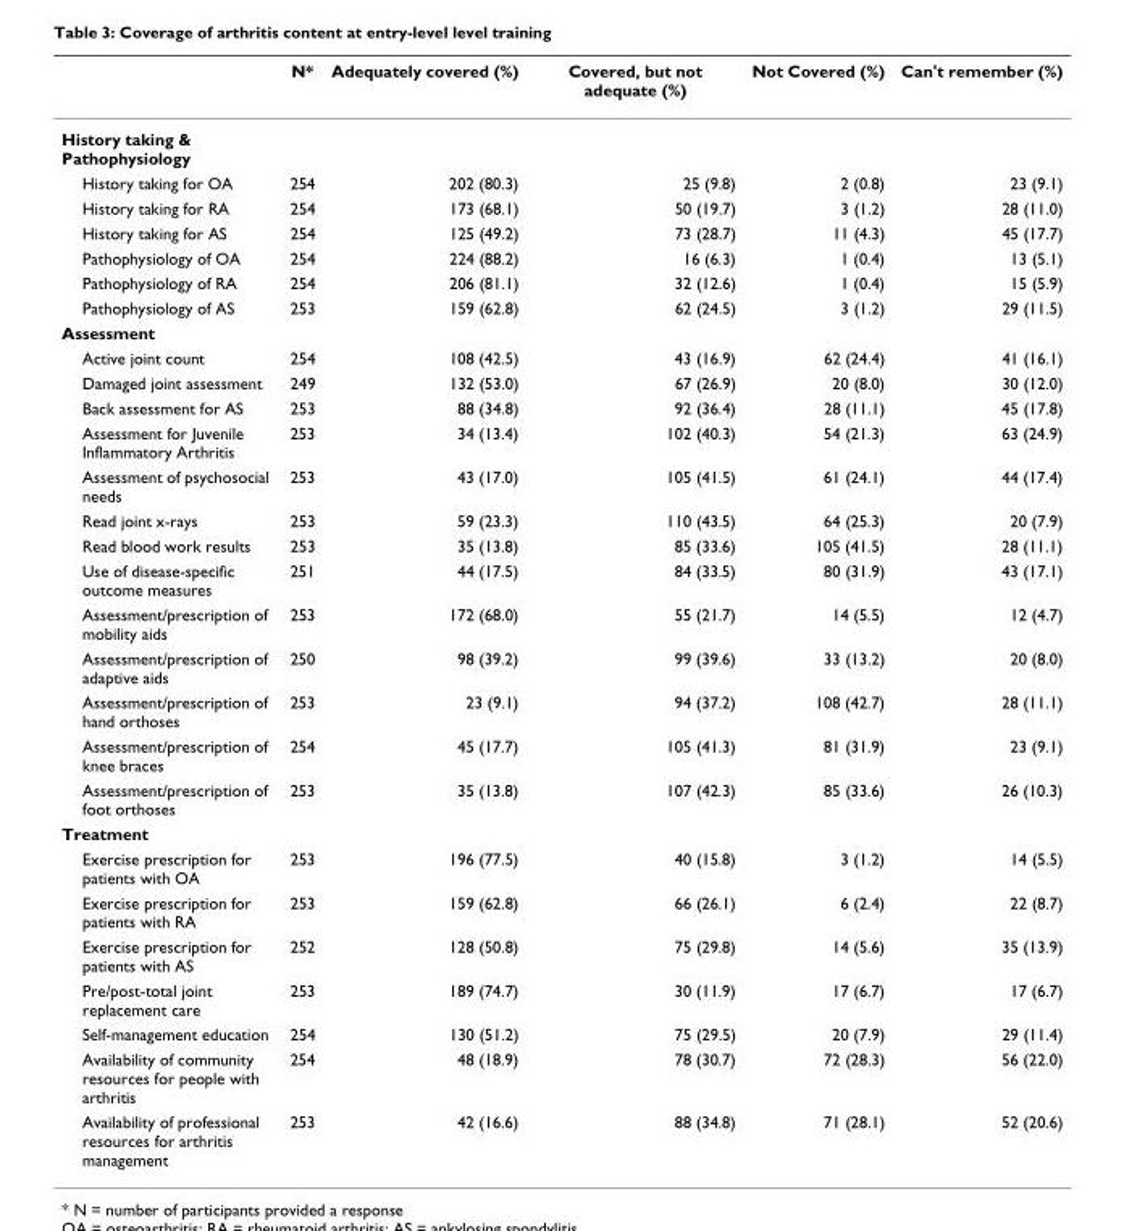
<table><thead><tr><td></td><td>N*</td><td>Adequately covered (%)</td><td>Covered, but not adequate (%)</td><td>Not Covered (%)</td><td>Can&#x27;t remember (%)</td></tr></thead><tbody><tr><td colspan="6">History taking &amp; Pathophysiology</td></tr><tr><td>History taking for OA</td><td>254</td><td>202 (80.3)</td><td>25 (9.8)</td><td>2 (0.8)</td><td>23 (9.1)</td></tr><tr><td>History taking for RA</td><td>254</td><td>173 (68.1)</td><td>50 (19.7)</td><td>3 (1.2)</td><td>28 (11.0)</td></tr><tr><td>History taking for AS</td><td>254</td><td>125 (49.2)</td><td>73 (28.7)</td><td>11 (4.3)</td><td>45 (17.7)</td></tr><tr><td>Pathophysiology of OA</td><td>254</td><td>224 (88.2)</td><td>16 (6.3)</td><td>1 (0.4)</td><td>13 (5.1)</td></tr><tr><td>Pathophysiology of RA</td><td>254</td><td>206 (81.1)</td><td>32 (12.6)</td><td>1 (0.4)</td><td>15 (5.9)</td></tr><tr><td>Pathophysiology of AS</td><td>253</td><td>159 (62.8)</td><td>62 (24.5)</td><td>3 (1.2)</td><td>29 (11.5)</td></tr><tr><td colspan="6">Assessment</td></tr><tr><td>Active joint count</td><td>254</td><td>108 (42.5)</td><td>43 (16.9)</td><td>62 (24.4)</td><td>41 (16.1)</td></tr><tr><td>Damaged joint assessment</td><td>249</td><td>132 (53.0)</td><td>67 (26.9)</td><td>20 (8.0)</td><td>30 (12.0)</td></tr><tr><td>Back assessment for AS</td><td>253</td><td>88 (34.8)</td><td>92 (36.4)</td><td>28 (11.1)</td><td>45 (17.8)</td></tr><tr><td>Assessment for Juvenile Inflammatory Arthritis</td><td>253</td><td>34 (13.4)</td><td>102 (40.3)</td><td>54 (21.3)</td><td>63 (24.9)</td></tr><tr><td>Assessment of psychosocial needs</td><td>253</td><td>43 (17.0)</td><td>105 (41.5)</td><td>61 (24.1)</td><td>44 (17.4)</td></tr><tr><td>Read joint x-rays</td><td>253</td><td>59 (23.3)</td><td>110 (43.5)</td><td>64 (25.3)</td><td>20 (7.9)</td></tr><tr><td>Read blood work results</td><td>253</td><td>35 (13.8)</td><td>85 (33.6)</td><td>105 (41.5)</td><td>28 (11.1)</td></tr><tr><td>Use of disease-specific outcome measures</td><td>251</td><td>44 (17.5)</td><td>84 (33.5)</td><td>80 (31.9)</td><td>43 (17.1)</td></tr><tr><td>Assessment/prescription of mobility aids</td><td>253</td><td>172 (68.0)</td><td>55 (21.7)</td><td>14 (5.5)</td><td>12 (4.7)</td></tr><tr><td>Assessment/prescription of adaptive aids</td><td>250</td><td>98 (39.2)</td><td>99 (39.6)</td><td>33 (13.2)</td><td>20 (8.0)</td></tr><tr><td>Assessment/prescription of hand orthoses</td><td>253</td><td>23 (9.1)</td><td>94 (37.2)</td><td>108 (42.7)</td><td>28 (11.1)</td></tr><tr><td>Assessment/prescription of knee braces</td><td>254</td><td>45 (17.7)</td><td>105 (41.3)</td><td>81 (31.9)</td><td>23 (9.1)</td></tr><tr><td>Assessment/prescription of foot orthoses</td><td>253</td><td>35 (13.8)</td><td>107 (42.3)</td><td>85 (33.6)</td><td>26 (10.3)</td></tr><tr><td colspan="6">Treatment</td></tr><tr><td>Exercise prescription for patients with OA</td><td>253</td><td>196 (77.5)</td><td>40 (15.8)</td><td>3 (1.2)</td><td>14 (5.5)</td></tr><tr><td>Exercise prescription for patients with RA</td><td>253</td><td>159 (62.8)</td><td>66 (26.1)</td><td>6 (2.4)</td><td>22 (8.7)</td></tr><tr><td>Exercise prescription for patients with AS</td><td>252</td><td>128 (50.8)</td><td>75 (29.8)</td><td>14 (5.6)</td><td>35 (13.9)</td></tr><tr><td>Pre/post-total joint replacement care</td><td>253</td><td>189 (74.7)</td><td>30 (11.9)</td><td>17 (6.7)</td><td>17 (6.7)</td></tr><tr><td>Self-management education</td><td>254</td><td>130 (51.2)</td><td>75 (29.5)</td><td>20 (7.9)</td><td>29 (11.4)</td></tr><tr><td>Availability of community resources for people with arthritis</td><td>254</td><td>48 (18.9)</td><td>78 (30.7)</td><td>72 (28.3)</td><td>56 (22.0)</td></tr><tr><td>Availability of professional resources for arthritis management</td><td>253</td><td>42 (16.6)</td><td>88 (34.8)</td><td>71 (28.1)</td><td>52 (20.6)</td></tr></tbody></table>